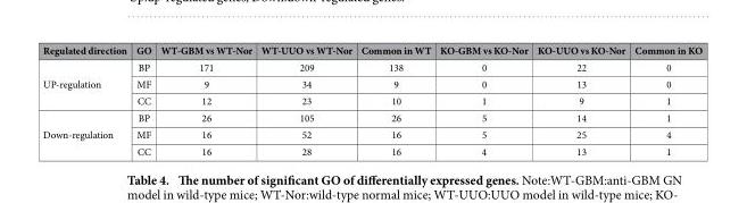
<table><thead><tr><td>Regulated direction</td><td>GO</td><td>WT-GBM vs WT-Nor</td><td>WT-UUO vs WT-Nor</td><td>Common in WT</td><td>KO-GBM vs KO-Nor</td><td>KO-UUO vs KO-Nor</td><td>Common in KO</td></tr></thead><tbody><tr><td rowspan="3">UP-regulation</td><td>BP</td><td>171</td><td>209</td><td>138</td><td>0</td><td>22</td><td>0</td></tr><tr><td>MF</td><td>9</td><td>34</td><td>9</td><td>0</td><td>13</td><td>0</td></tr><tr><td>CC</td><td>12</td><td>23</td><td>10</td><td>1</td><td>9</td><td>1</td></tr><tr><td rowspan="3">Down-regulation</td><td>BP</td><td>26</td><td>105</td><td>26</td><td>5</td><td>14</td><td>1</td></tr><tr><td>MF</td><td>16</td><td>52</td><td>16</td><td>5</td><td>25</td><td>4</td></tr><tr><td>CC</td><td>16</td><td>28</td><td>16</td><td>4</td><td>13</td><td>1</td></tr></tbody></table>